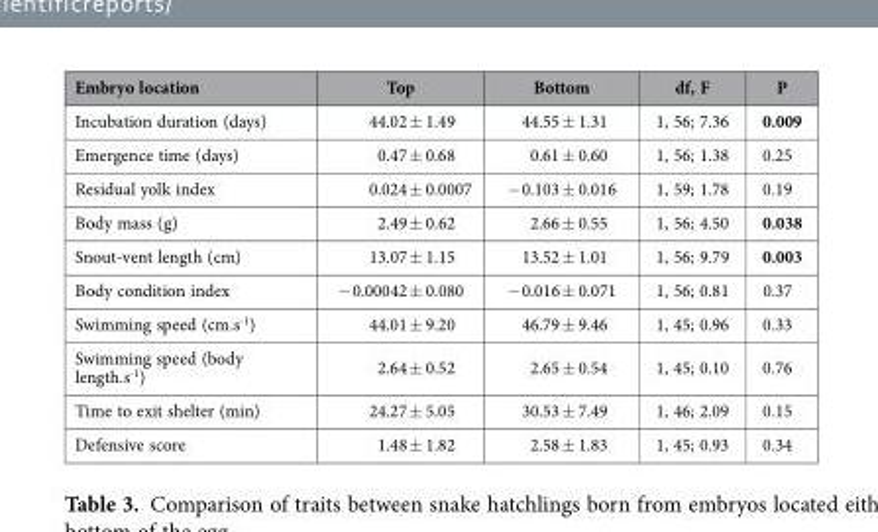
<table><thead><tr><td>Embryo location</td><td>Top</td><td>Bottom</td><td>df, F</td><td>P</td></tr></thead><tbody><tr><td>Incubation duration (days)</td><td>44.02 ± 1.49</td><td>44.55 ± 1.31</td><td>1, 56; 7.36</td><td>0.009</td></tr><tr><td>Emergence time (days)</td><td>0.47 ± 0.68</td><td>0.61 ± 0.60</td><td>1, 56; 1.38</td><td>0.25</td></tr><tr><td>Residual yolk index</td><td>0.024 ± 0.0007</td><td>− 0.103 ± 0.016</td><td>1, 59; 1.78</td><td>0.19</td></tr><tr><td>Body mass (g)</td><td>2.49 ± 0.62</td><td>2.66 ± 0.55</td><td>1, 56; 4.50</td><td>0.038</td></tr><tr><td>Snout-vent length (cm)</td><td>13.07 ± 1.15</td><td>13.52 ± 1.01</td><td>1, 56; 9.79</td><td>0.003</td></tr><tr><td>Body condition index</td><td>− 0.00042 ± 0.080</td><td>− 0.016 ± 0.071</td><td>1, 56; 0.81</td><td>0.37</td></tr><tr><td>Swimming speed (cm.s<sup>-1</sup>)</td><td>44.01 ± 9.20</td><td>46.79 ± 9.46</td><td>1, 45; 0.96</td><td>0.33</td></tr><tr><td>Swimming speed (body length.s<sup>-1</sup>)</td><td>2.64 ± 0.52</td><td>2.65 ± 0.54</td><td>1, 45; 0.10</td><td>0.76</td></tr><tr><td>Time to exit shelter (min)</td><td>24.27 ± 5.05</td><td>30.53 ± 7.49</td><td>1, 46; 2.09</td><td>0.15</td></tr><tr><td>Defensive score</td><td>1.48 ± 1.82</td><td>2.58 ± 1.83</td><td>1, 45; 0.93</td><td>0.34</td></tr></tbody></table>